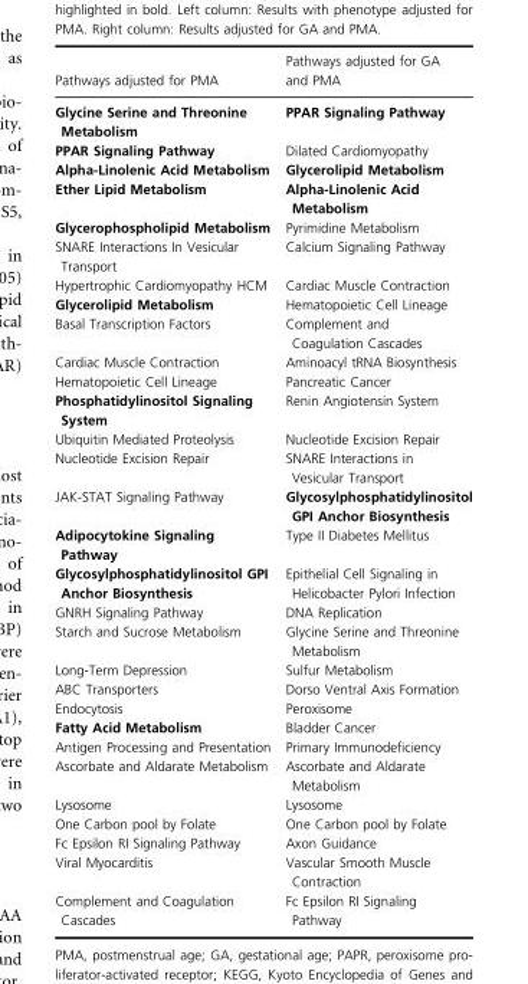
<table><thead><tr><td>Pathways adjusted for PMA</td><td>Pathways adjusted for GA and PMA</td></tr></thead><tbody><tr><td>Glycine Serine and Threonine Metabolism</td><td>PPAR Signaling Pathway</td></tr><tr><td>PPAR Signaling Pathway</td><td>Dilated Cardiomyopathy</td></tr><tr><td>Alpha-Linolenic Acid Metabolism</td><td>Glycerolipid Metabolism</td></tr><tr><td>Ether Lipid Metabolism</td><td>Alpha-Linolenic Acid Metabolism</td></tr><tr><td>Glycerophospholipid Metabolism</td><td>Pyrimidine Metabolism</td></tr><tr><td>SNARE Interactions In Vesicular Transport</td><td>Calcium Signaling Pathway</td></tr><tr><td>Hypertrophic Cardiomyopathy HCM</td><td>Cardiac Muscle Contraction</td></tr><tr><td>Glycerolipid Metabolism</td><td>Hematopoietic Cell Lineage</td></tr><tr><td>Basal Transcription Factors</td><td>Complement and Coagulation Cascades</td></tr><tr><td>Cardiac Muscle Contraction</td><td>Aminoacyl tRNA Biosynthesis</td></tr><tr><td>Hematopoietic Cell Lineage</td><td>Pancreatic Cancer</td></tr><tr><td>Phosphatidylinositol Signaling System</td><td>Renin Angiotensin System</td></tr><tr><td>Ubiquitin Mediated Proteolysis</td><td>Nucleotide Excision Repair</td></tr><tr><td>Nucleotide Excision Repair</td><td>SNARE Interactions in Vesicular Transport</td></tr><tr><td>JAK-STAT Signaling Pathway</td><td>Glycosylphosphatidylinositol GPI Anchor Biosynthesis</td></tr><tr><td>Adipocytokine Signaling Pathway</td><td>Type II Diabetes Mellitus</td></tr><tr><td>Glycosylphosphatidylinositol GPI Anchor Biosynthesis</td><td>Epithelial Cell Signaling in Helicobacter Pylori Infection</td></tr><tr><td>GNRH Signaling Pathway</td><td>DNA Replication</td></tr><tr><td>Starch and Sucrose Metabolism</td><td>Glycine Serine and Threonine Metabolism</td></tr><tr><td>Long-Term Depression</td><td>Sulfur Metabolism</td></tr><tr><td>ABC Transporters</td><td>Dorso Ventral Axis Formation</td></tr><tr><td>Endocytosis</td><td>Peroxisome</td></tr><tr><td>Fatty Acid Metabolism</td><td>Bladder Cancer</td></tr><tr><td>Antigen Processing and Presentation</td><td>Primary Immunodeficiency</td></tr><tr><td>Ascorbate and Aldarate Metabolism</td><td>Ascorbate and Aldarate Metabolism</td></tr><tr><td>Lysosome</td><td>Lysosome</td></tr><tr><td>One Carbon pool by Folate</td><td>One Carbon pool by Folate</td></tr><tr><td>Fc Epsilon RI Signaling Pathway</td><td>Axon Guidance</td></tr><tr><td>Viral Myocarditis</td><td>Vascular Smooth Muscle Contraction</td></tr><tr><td>Complement and Coagulation Cascades</td><td>Fc Epsilon RI Signaling Pathway</td></tr></tbody></table>